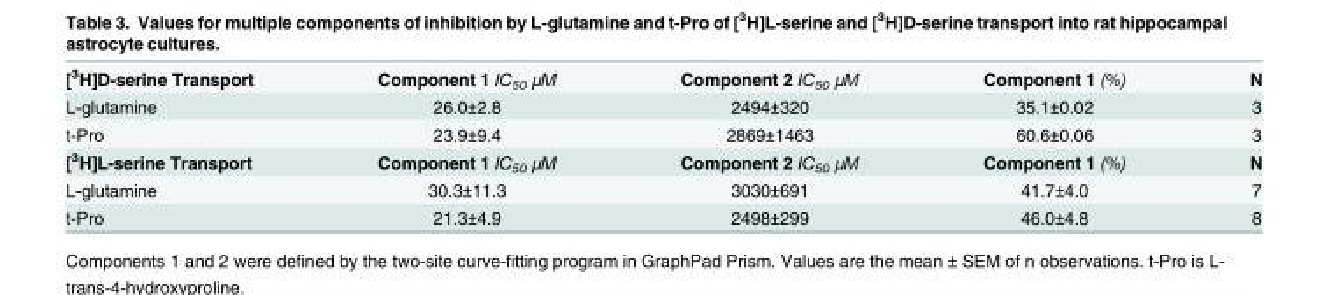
<table><tbody><tr><td>[<sup>3</sup>H]D-serine Transport</td><td>Component 1 IC<sub>50</sub> μM</td><td>Component 2 IC<sub>50</sub> μM</td><td>Component 1 (%)</td><td>N</td></tr><tr><td>L-glutamine</td><td>26.0±2.8</td><td>2494±320</td><td>35.1±0.02</td><td>3</td></tr><tr><td>t-Pro</td><td>23.9±9.4</td><td>2869±1463</td><td>60.6±0.06</td><td>3</td></tr><tr><td>[<sup>3</sup>H]L-serine Transport</td><td>Component 1 IC<sub>50</sub> μM</td><td>Component 2 IC<sub>50</sub> μM</td><td>Component 1 (%)</td><td>N</td></tr><tr><td>L-glutamine</td><td>30.3±11.3</td><td>3030±691</td><td>41.7±4.0</td><td>7</td></tr><tr><td>t-Pro</td><td>21.3±4.9</td><td>2498±299</td><td>46.0±4.8</td><td>8</td></tr></tbody></table>